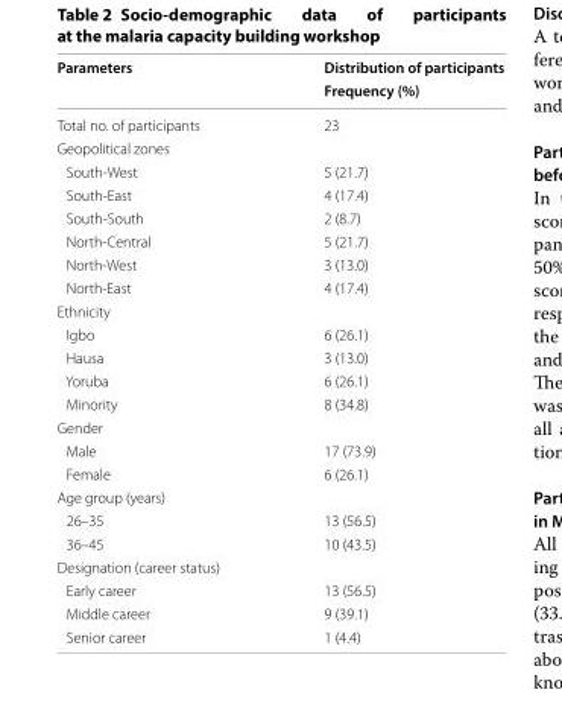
<table><thead><tr><td rowspan="2">Parameters</td><td rowspan="2">Distribution of participants Frequency (%)</td></tr><tr></tr></thead><tbody><tr><td>Total no. of participants</td><td>23</td></tr><tr><td colspan="2">Geopolitical zones</td></tr><tr><td>South-West</td><td>5 (21.7)</td></tr><tr><td>South-East</td><td>4 (17.4)</td></tr><tr><td>South-South</td><td>2 (8.7)</td></tr><tr><td>North-Central</td><td>5 (21.7)</td></tr><tr><td>North-West</td><td>3 (13.0)</td></tr><tr><td>North-East</td><td>4 (17.4)</td></tr><tr><td colspan="2">Ethnicity</td></tr><tr><td>Igbo</td><td>6 (26.1)</td></tr><tr><td>Hausa</td><td>3 (13.0)</td></tr><tr><td>Yoruba</td><td>6 (26.1)</td></tr><tr><td>Minority</td><td>8 (34.8)</td></tr><tr><td colspan="2">Gender</td></tr><tr><td>Male</td><td>17 (73.9)</td></tr><tr><td>Female</td><td>6 (26.1)</td></tr><tr><td colspan="2">Age group (years)</td></tr><tr><td>26–35</td><td>13 (56.5)</td></tr><tr><td>36–45</td><td>10 (43.5)</td></tr><tr><td colspan="2">Designation (career status)</td></tr><tr><td>Early career</td><td>13 (56.5)</td></tr><tr><td>Middle career</td><td>9 (39.1)</td></tr><tr><td>Senior career</td><td>1 (4.4)</td></tr></tbody></table>